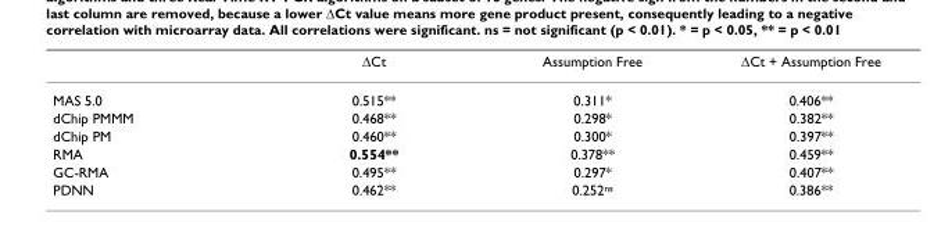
<table><thead><tr><td></td><td>∆Ct</td><td>Assumption Free</td><td>∆Ct + Assumption Free</td></tr></thead><tbody><tr><td>MAS 5.0</td><td>0.515**</td><td>0.311*</td><td>0.406**</td></tr><tr><td>dChip PMMM</td><td>0.468**</td><td>0.298*</td><td>0.382**</td></tr><tr><td>dChip PM</td><td>0.460**</td><td>0.300*</td><td>0.397**</td></tr><tr><td>RMA</td><td>0.554**</td><td>0.378**</td><td>0.459**</td></tr><tr><td>GC-RMA</td><td>0.495**</td><td>0.297*</td><td>0.407**</td></tr><tr><td>PDNN</td><td>0.462**</td><td>0.252ns</td><td>0.386**</td></tr></tbody></table>